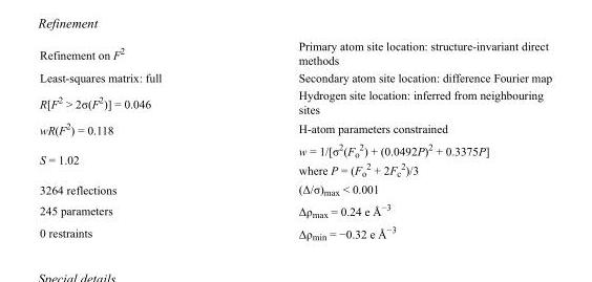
<table><tbody><tr><td>Refinement on F<sup>2</sup></td><td>Primary atom site location: structure-invariant direct methods</td></tr><tr><td>Least-squares matrix: full</td><td>Secondary atom site location: difference Fourier map</td></tr><tr><td>R[F<sup>2</sup> &gt; 2σ(F<sup>2</sup>)] = 0.046</td><td>Hydrogen site location: inferred from neighbouring sites</td></tr><tr><td>wR(F<sup>2</sup>) = 0.118</td><td>H-atom parameters constrained</td></tr><tr><td>S = 1.02</td><td>w = 1/[σ<sup>2</sup>(F<sub>o</sub> <sup>2</sup>) + (0.0492P)<sup>2</sup> + 0.3375P] where P = (F<sub>o</sub> <sup>2</sup> + 2F<sub>c</sub> <sup>2</sup>)/3</td></tr><tr><td>3264 reflections</td><td>(Δ/σ)<sub>max</sub> &lt; 0.001</td></tr><tr><td>245 parameters</td><td>Δρ<sub>max</sub> = 0.24 e Å<sup>−3</sup></td></tr><tr><td>0 restraints</td><td>Δρ<sub>min</sub> = −0.32 e Å<sup>−3</sup></td></tr></tbody></table>